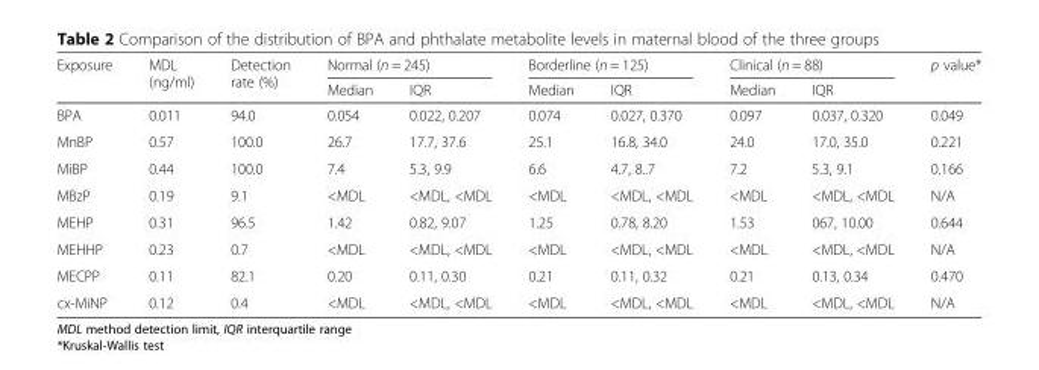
<table><thead><tr><td rowspan="2">Exposure</td><td rowspan="2">MDL (ng/ml)</td><td rowspan="2">Detection rate (%)</td><td colspan="2">Normal (n = 245)</td><td colspan="2">Borderline (n = 125)</td><td colspan="2">Clinical (n = 88)</td><td rowspan="2">p value*</td></tr><tr><td>Median</td><td>IQR</td><td>Median</td><td>IQR</td><td>Median</td><td>IQR</td></tr></thead><tbody><tr><td>BPA</td><td>0.011</td><td>94.0</td><td>0.054</td><td>0.022, 0.207</td><td>0.074</td><td>0.027, 0.370</td><td>0.097</td><td>0.037, 0.320</td><td>0.049</td></tr><tr><td>MnBP</td><td>0.57</td><td>100.0</td><td>26.7</td><td>17.7, 37.6</td><td>25.1</td><td>16.8, 34.0</td><td>24.0</td><td>17.0, 35.0</td><td>0.221</td></tr><tr><td>MiBP</td><td>0.44</td><td>100.0</td><td>7.4</td><td>5.3, 9.9</td><td>6.6</td><td>4.7, 8..7</td><td>7.2</td><td>5.3, 9.1</td><td>0.166</td></tr><tr><td>MBzP</td><td>0.19</td><td>9.1</td><td>&lt;MDL</td><td>&lt;MDL, &lt;MDL</td><td>&lt;MDL</td><td>&lt;MDL, &lt;MDL</td><td>&lt;MDL</td><td>&lt;MDL, &lt;MDL</td><td>N/A</td></tr><tr><td>MEHP</td><td>0.31</td><td>96.5</td><td>1.42</td><td>0.82, 9.07</td><td>1.25</td><td>0.78, 8.20</td><td>1.53</td><td>067, 10.00</td><td>0.644</td></tr><tr><td>MEHHP</td><td>0.23</td><td>0.7</td><td>&lt;MDL</td><td>&lt;MDL, &lt;MDL</td><td>&lt;MDL</td><td>&lt;MDL, &lt;MDL</td><td>&lt;MDL</td><td>&lt;MDL, &lt;MDL</td><td>N/A</td></tr><tr><td>MECPP</td><td>0.11</td><td>82.1</td><td>0.20</td><td>0.11, 0.30</td><td>0.21</td><td>0.11, 0.32</td><td>0.21</td><td>0.13, 0.34</td><td>0.470</td></tr><tr><td>cx-MiNP</td><td>0.12</td><td>0.4</td><td>&lt;MDL</td><td>&lt;MDL, &lt;MDL</td><td>&lt;MDL</td><td>&lt;MDL, &lt;MDL</td><td>&lt;MDL</td><td>&lt;MDL, &lt;MDL</td><td>N/A</td></tr></tbody></table>